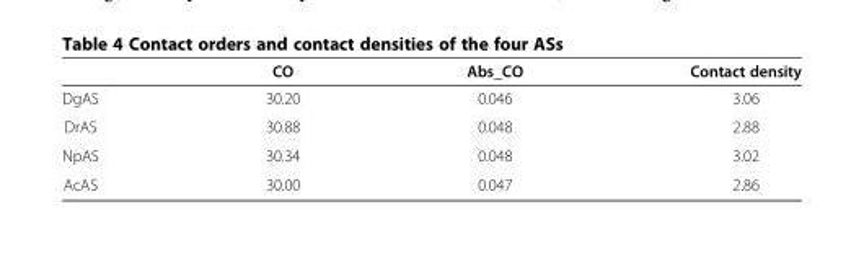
<table><thead><tr><td></td><td>CO</td><td>Abs_CO</td><td>Contact density</td></tr></thead><tbody><tr><td>DgAS</td><td>30.20</td><td>0.046</td><td>3.06</td></tr><tr><td>DrAS</td><td>30.88</td><td>0.048</td><td>2.88</td></tr><tr><td>NpAS</td><td>30.34</td><td>0.048</td><td>3.02</td></tr><tr><td>AcAS</td><td>30.00</td><td>0.047</td><td>2.86</td></tr></tbody></table>